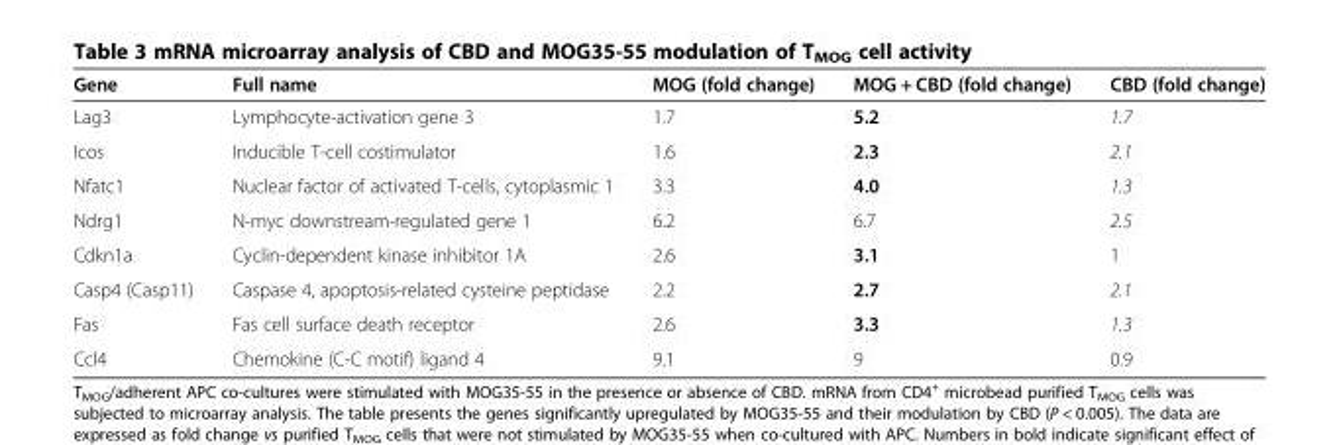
<table><thead><tr><td>Gene</td><td>Full name</td><td>MOG (fold change)</td><td>MOG + CBD (fold change)</td><td>CBD (fold change)</td></tr></thead><tbody><tr><td>Lag3</td><td>Lymphocyte-activation gene 3</td><td>1.7</td><td>5.2</td><td>1.7</td></tr><tr><td>Icos</td><td>Inducible T-cell costimulator</td><td>1.6</td><td>2.3</td><td>2.1</td></tr><tr><td>Nfatc1</td><td>Nuclear factor of activated T-cells, cytoplasmic 1</td><td>3.3</td><td>4.0</td><td>1.3</td></tr><tr><td>Ndrg1</td><td>N-myc downstream-regulated gene 1</td><td>6.2</td><td>6.7</td><td>2.5</td></tr><tr><td>Cdkn1a</td><td>Cyclin-dependent kinase inhibitor 1A</td><td>2.6</td><td>3.1</td><td>1</td></tr><tr><td>Casp4 (Casp11)</td><td>Caspase 4, apoptosis-related cysteine peptidase</td><td>2.2</td><td>2.7</td><td>2.1</td></tr><tr><td>Fas</td><td>Fas cell surface death receptor</td><td>2.6</td><td>3.3</td><td>1.3</td></tr><tr><td>Ccl4</td><td>Chemokine (C-C motif) ligand 4</td><td>9.1</td><td>9</td><td>0.9</td></tr></tbody></table>